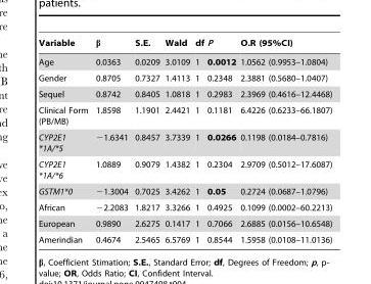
<table><thead><tr><td>Variable</td><td>β</td><td>S.E.</td><td>Wald</td><td>df</td><td>P</td><td>O.R (95%CI)</td></tr></thead><tbody><tr><td>Age</td><td>0.0363</td><td>0.0209</td><td>3.0109</td><td>1</td><td>0.0012</td><td>1.0562 (0.9953–1.0804)</td></tr><tr><td>Gender</td><td>0.8705</td><td>0.7327</td><td>1.4113</td><td>1</td><td>0.2348</td><td>2.3881 (0.5680–1.0407)</td></tr><tr><td>Sequel</td><td>0.8742</td><td>0.8405</td><td>1.0818</td><td>1</td><td>0.2983</td><td>2.3969 (0.4616–12.4468)</td></tr><tr><td>Clinical Form (PB/MB)</td><td>1.8598</td><td>1.1901</td><td>2.4421</td><td>1</td><td>0.1181</td><td>6.4226 (0.6233–66.1807)</td></tr><tr><td>CYP2E1 *1A/*5</td><td>−1.6341</td><td>0.8457</td><td>3.7339</td><td>1</td><td>0.0266</td><td>0.1198 (0.0184–0.7816)</td></tr><tr><td>CYP2E1 *1A/*6</td><td>1.0889</td><td>0.9079</td><td>1.4382</td><td>1</td><td>0.2304</td><td>2.9709 (0.5012–17.6087)</td></tr><tr><td>GSTM1*0</td><td>−1.3004</td><td>0.7025</td><td>3.4262</td><td>1</td><td>0.05</td><td>0.2724 (0.0687–1.0796)</td></tr><tr><td>African</td><td>−2.2083</td><td>1.8217</td><td>3.3266</td><td>1</td><td>0.4925</td><td>0.1099 (0.0002–60.2213)</td></tr><tr><td>European</td><td>0.9890</td><td>2.6275</td><td>0.1417</td><td>1</td><td>0.7066</td><td>2.6885 (0.0156–10.6548)</td></tr><tr><td>Amerindian</td><td>0.4674</td><td>2.5465</td><td>6.5769</td><td>1</td><td>0.8544</td><td>1.5958 (0.0108–11.0136)</td></tr></tbody></table>